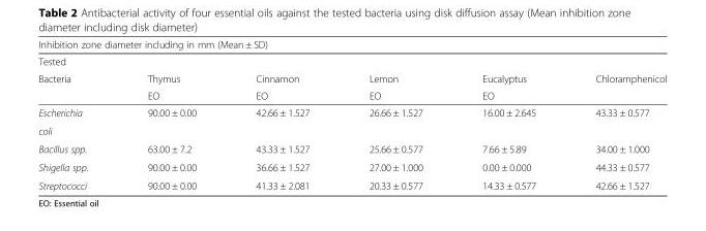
<table><thead><tr><td colspan="6">Inhibition zone diameter including in mm (Mean ± SD)</td></tr><tr><td rowspan="3">Tested Bacteria</td><td rowspan="3">Thymus EO</td><td rowspan="3">Cinnamon EO</td><td rowspan="3">Lemon EO</td><td rowspan="3">Eucalyptus EO</td><td rowspan="3">Chloramphenicol</td></tr><tr></tr><tr></tr></thead><tbody><tr><td>Escherichia</td><td>90.00 ± 0.00</td><td>42.66 ± 1.527</td><td>26.66 ± 1.527</td><td>16.00 ± 2.645</td><td>43.33 ± 0.577</td></tr><tr><td colspan="6">coli</td></tr><tr><td>Bacillus spp.</td><td>63.00 ± 7.2</td><td>43.33 ± 1.527</td><td>25.66 ± 0.577</td><td>7.66 ± 5.89</td><td>34.00 ± 1.000</td></tr><tr><td>Shigella spp.</td><td>90.00 ± 0.00</td><td>36.66 ± 1.527</td><td>27.00 ± 1.000</td><td>0.00 ± 0.000</td><td>44.33 ± 0.577</td></tr><tr><td>Streptococci</td><td>90.00 ± 0.00</td><td>41.33 ± 2.081</td><td>20.33 ± 0.577</td><td>14.33 ± 0.577</td><td>42.66 ± 1.527</td></tr></tbody></table>